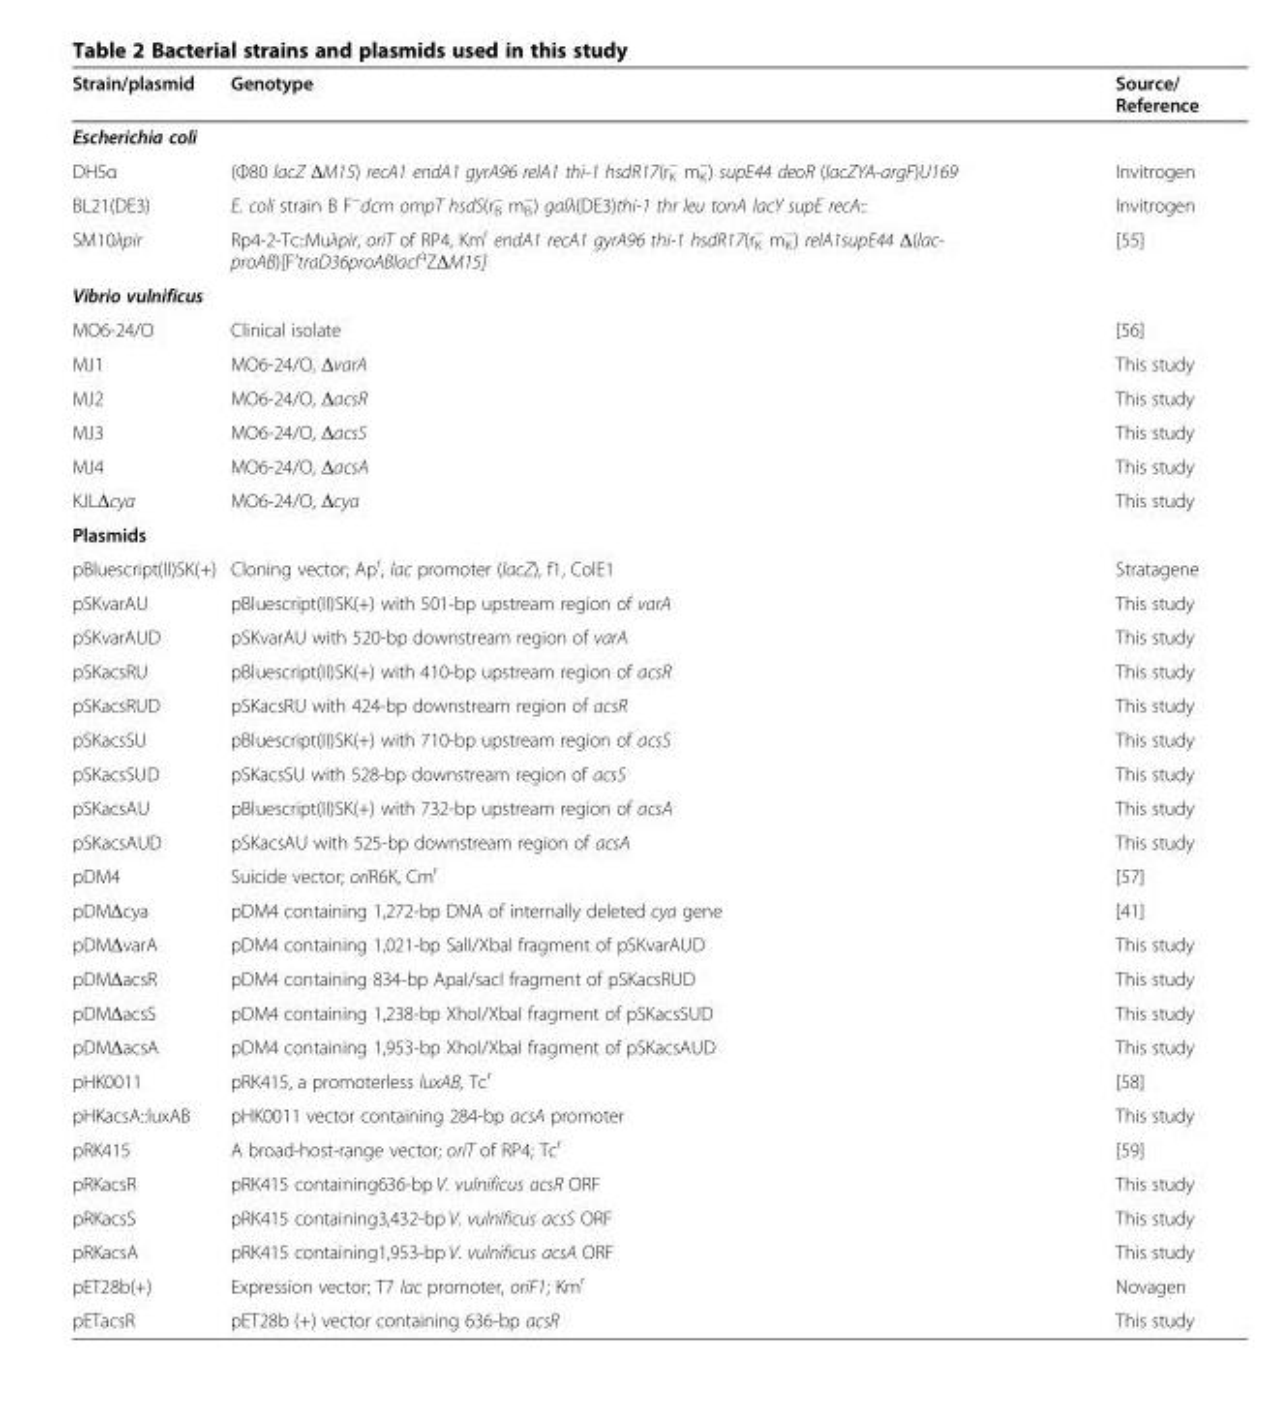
<table><thead><tr><td>Strain/plasmid</td><td>Genotype</td><td>Source/ Reference</td></tr></thead><tbody><tr><td colspan="3">Escherichia coli</td></tr><tr><td>DH5α</td><td>(Φ80 lacZ ΔM15) recA1 endA1 gyrA96 relA1 thi-1 hsdR17(r<sub>K</sub> <sup>−</sup> m<sub>K</sub> <sup>−</sup>) supE44 deoR (lacZYA-argF)U169</td><td>Invitrogen</td></tr><tr><td>BL21(DE3)</td><td>E. coli strain B F<sup>−</sup>dcm ompT hsdS(r<sub>B</sub> <sup>−</sup> m<sub>B</sub> <sup>−</sup>) galλ(DE3)thi-1 thr leu tonA lacY supE recA::</td><td>Invitrogen</td></tr><tr><td>SM10λpir</td><td>Rp4-2-Tc::Muλpir, oriT of RP4, Km<sup>r</sup> endA1 recA1 gyrA96 thi-1 hsdR17(r<sub>K</sub> <sup>−</sup> m<sub>K</sub> <sup>−</sup>) relA1supE44 Δ(lac- proAB)[F’traD36proABlacI<sup>q</sup>ZΔM15]</td><td>[55]</td></tr><tr><td colspan="3">Vibrio vulnificus</td></tr><tr><td>MO6-24/O</td><td>Clinical isolate</td><td>[56]</td></tr><tr><td>MJ1</td><td>MO6-24/O, ΔvarA</td><td>This study</td></tr><tr><td>MJ2</td><td>MO6-24/O, ΔacsR</td><td>This study</td></tr><tr><td>MJ3</td><td>MO6-24/O, ΔacsS</td><td>This study</td></tr><tr><td>MJ4</td><td>MO6-24/O, ΔacsA</td><td>This study</td></tr><tr><td>KJLΔcya</td><td>MO6-24/O, Δcya</td><td>This study</td></tr><tr><td colspan="3">Plasmids</td></tr><tr><td>pBluescript(II)SK(+)</td><td>Cloning vector; Ap<sup>r</sup>, lac promoter (lacZ), f1, ColE1</td><td>Stratagene</td></tr><tr><td>pSKvarAU</td><td>pBluescript(II)SK(+) with 501-bp upstream region of varA</td><td>This study</td></tr><tr><td>pSKvarAUD</td><td>pSKvarAU with 520-bp downstream region of varA</td><td>This study</td></tr><tr><td>pSKacsRU</td><td>pBluescript(II)SK(+) with 410-bp upstream region of acsR</td><td>This study</td></tr><tr><td>pSKacsRUD</td><td>pSKacsRU with 424-bp downstream region of acsR</td><td>This study</td></tr><tr><td>pSKacsSU</td><td>pBluescript(II)SK(+) with 710-bp upstream region of acsS</td><td>This study</td></tr><tr><td>pSKacsSUD</td><td>pSKacsSU with 528-bp downstream region of acsS</td><td>This study</td></tr><tr><td>pSKacsAU</td><td>pBluescript(II)SK(+) with 732-bp upstream region of acsA</td><td>This study</td></tr><tr><td>pSKacsAUD</td><td>pSKacsAU with 525-bp downstream region of acsA</td><td>This study</td></tr><tr><td>pDM4</td><td>Suicide vector; oriR6K, Cm<sup>r</sup></td><td>[57]</td></tr><tr><td>pDMΔcya</td><td>pDM4 containing 1,272-bp DNA of internally deleted cya gene</td><td>[41]</td></tr><tr><td>pDMΔvarA</td><td>pDM4 containing 1,021-bp SalI/XbaI fragment of pSKvarAUD</td><td>This study</td></tr><tr><td>pDMΔacsR</td><td>pDM4 containing 834-bp ApaI/sacI fragment of pSKacsRUD</td><td>This study</td></tr><tr><td>pDMΔacsS</td><td>pDM4 containing 1,238-bp XhoI/XbaI fragment of pSKacsSUD</td><td>This study</td></tr><tr><td>pDMΔacsA</td><td>pDM4 containing 1,953-bp XhoI/XbaI fragment of pSKacsAUD</td><td>This study</td></tr><tr><td>pHK0011</td><td>pRK415, a promoterless luxAB, Tc<sup>r</sup></td><td>[58]</td></tr><tr><td>pHKacsA::luxAB</td><td>pHK0011 vector containing 284-bp acsA promoter</td><td>This study</td></tr><tr><td>pRK415</td><td>A broad-host-range vector; oriT of RP4; Tc<sup>r</sup></td><td>[59]</td></tr><tr><td>pRKacsR</td><td>pRK415 containing636-bp V. vulnificus acsR ORF</td><td>This study</td></tr><tr><td>pRKacsS</td><td>pRK415 containing3,432-bp V. vulnificus acsS ORF</td><td>This study</td></tr><tr><td>pRKacsA</td><td>pRK415 containing1,953-bp V. vulnificus acsA ORF</td><td>This study</td></tr><tr><td>pET28b(+)</td><td>Expression vector; T7 lac promoter, oriF1; Km<sup>r</sup></td><td>Novagen</td></tr><tr><td>pETacsR</td><td>pET28b (+) vector containing 636-bp acsR</td><td>This study</td></tr></tbody></table>